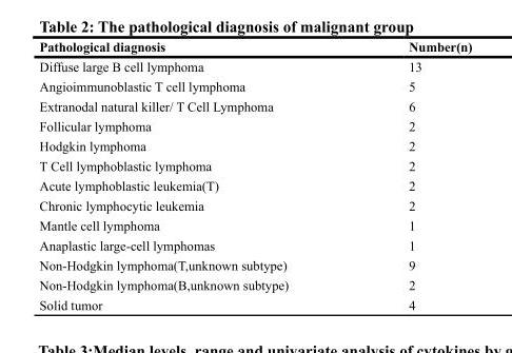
<table><thead><tr><td>Pathological diagnosis</td><td>Number(n)</td></tr></thead><tbody><tr><td>Diffuse large B cell lymphoma</td><td>13</td></tr><tr><td>Angioimmunoblastic T cell lymphoma</td><td>5</td></tr><tr><td>Extranodal natural killer/ T Cell Lymphoma</td><td>6</td></tr><tr><td>Follicular lymphoma</td><td>2</td></tr><tr><td>Hodgkin lymphoma</td><td>2</td></tr><tr><td>T Cell lymphoblastic lymphoma</td><td>2</td></tr><tr><td>Acute lymphoblastic leukemia(T)</td><td>2</td></tr><tr><td>Chronic lymphocytic leukemia</td><td>2</td></tr><tr><td>Mantle cell lymphoma</td><td>1</td></tr><tr><td>Anaplastic large-cell lymphomas</td><td>1</td></tr><tr><td>Non-Hodgkin lymphoma(T,unknown subtype)</td><td>9</td></tr><tr><td>Non-Hodgkin lymphoma(B,unknown subtype)</td><td>2</td></tr><tr><td>Solid tumor</td><td>4</td></tr></tbody></table>